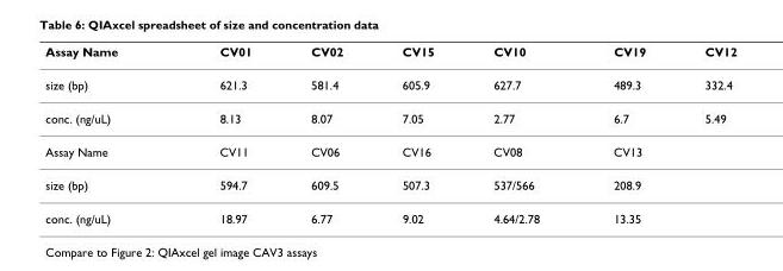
<table><thead><tr><td>Assay Name</td><td>CV01</td><td>CV02</td><td>CV15</td><td>CV10</td><td>CV19</td><td>CV12</td></tr></thead><tbody><tr><td>size (bp)</td><td>621.3</td><td>581.4</td><td>605.9</td><td>627.7</td><td>489.3</td><td>332.4</td></tr><tr><td>conc. (ng/uL)</td><td>8.13</td><td>8.07</td><td>7.05</td><td>2.77</td><td>6.7</td><td>5.49</td></tr><tr><td>Assay Name</td><td>CV11</td><td>CV06</td><td>CV16</td><td>CV08</td><td>CV13</td><td></td></tr><tr><td>size (bp)</td><td>594.7</td><td>609.5</td><td>507.3</td><td>537/566</td><td>208.9</td><td></td></tr><tr><td>conc. (ng/uL)</td><td>18.97</td><td>6.77</td><td>9.02</td><td>4.64/2.78</td><td>13.35</td><td></td></tr></tbody></table>